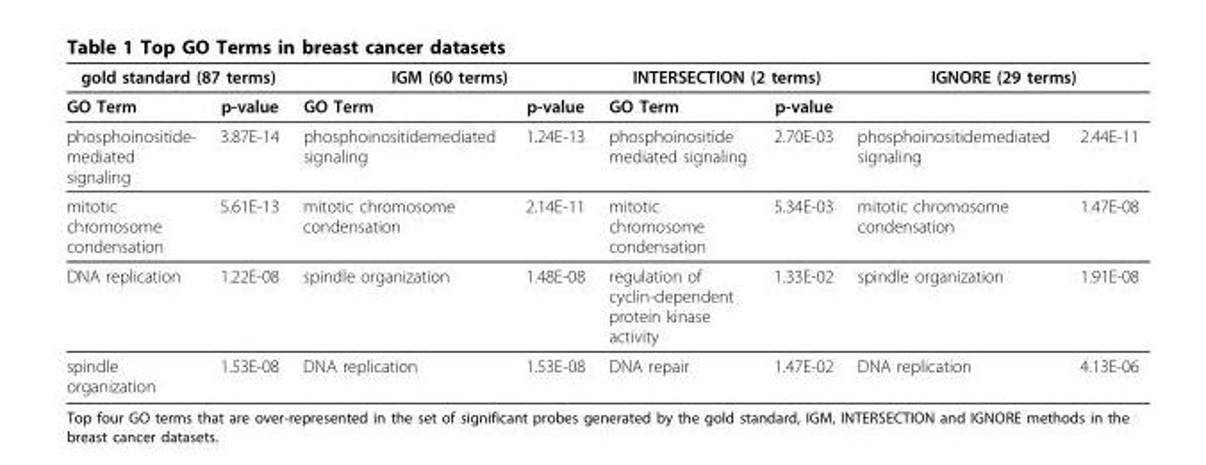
<table><thead><tr><td colspan="2">gold standard (87 terms)</td><td colspan="2">IGM (60 terms)</td><td colspan="2">INTERSECTION (2 terms)</td><td colspan="2">IGNORE (29 terms)</td></tr><tr><td>GO Term</td><td>p-value</td><td>GO Term</td><td>p-value</td><td>GO Term</td><td>p-value</td><td></td><td></td></tr></thead><tbody><tr><td>phosphoinositide- mediated signaling</td><td>3.87E-14</td><td>phosphoinositidemediated signaling</td><td>1.24E-13</td><td>phosphoinositide mediated signaling</td><td>2.70E-03</td><td>phosphoinositidemediated signaling</td><td>2.44E-11</td></tr><tr><td>mitotic chromosome condensation</td><td>5.61E-13</td><td>mitotic chromosome condensation</td><td>2.14E-11</td><td>mitotic chromosome condensation</td><td>5.34E-03</td><td>mitotic chromosome condensation</td><td>1.47E-08</td></tr><tr><td>DNA replication</td><td>1.22E-08</td><td>spindle organization</td><td>1.48E-08</td><td>regulation of cyclin-dependent protein kinase activity</td><td>1.33E-02</td><td>spindle organization</td><td>1.91E-08</td></tr><tr><td>spindle organization</td><td>1.53E-08</td><td>DNA replication</td><td>1.53E-08</td><td>DNA repair</td><td>1.47E-02</td><td>DNA replication</td><td>4.13E-06</td></tr></tbody></table>